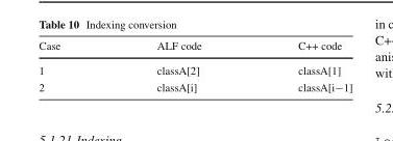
<table><thead><tr><td>Case</td><td>ALF code</td><td>C++ code</td></tr></thead><tbody><tr><td>1</td><td>classA[2]</td><td>classA[1]</td></tr><tr><td>2</td><td>classA[i]</td><td>classA[i−1]</td></tr></tbody></table>